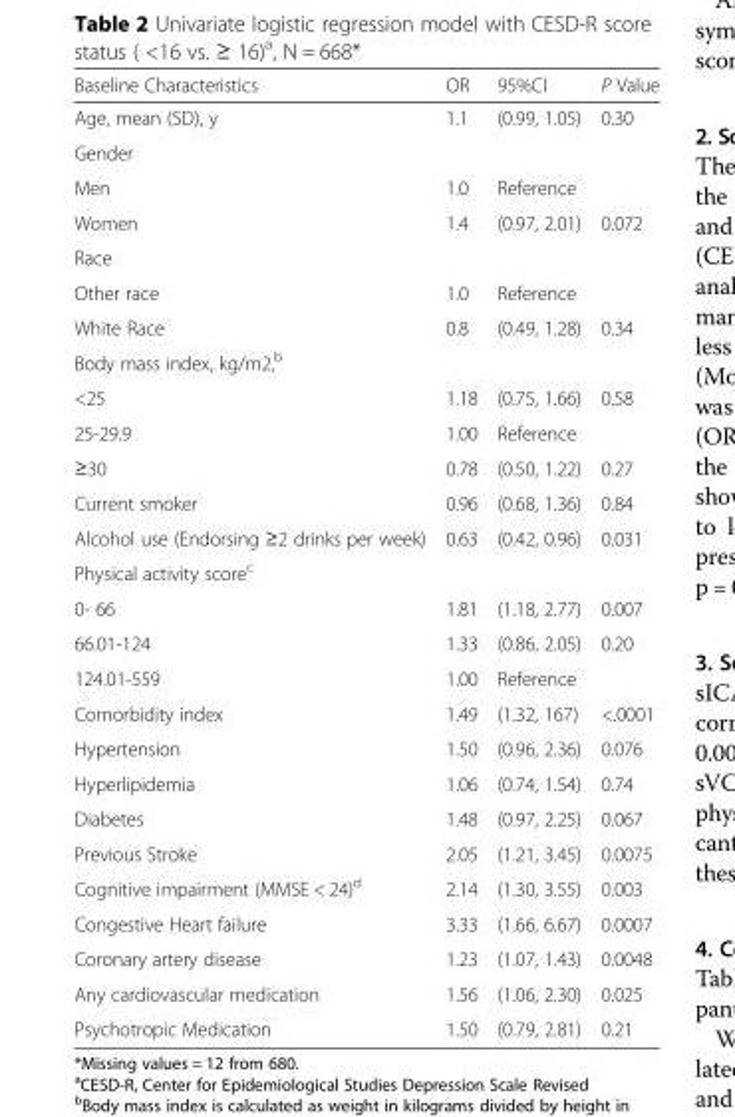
<table><thead><tr><td>Baseline Characteristics</td><td>OR</td><td>95%CI</td><td>P Value</td></tr></thead><tbody><tr><td>Age, mean (SD), y</td><td>1.1</td><td>(0.99, 1.05)</td><td>0.30</td></tr><tr><td colspan="4">Gender</td></tr><tr><td>Men</td><td>1.0</td><td>Reference</td><td></td></tr><tr><td>Women</td><td>1.4</td><td>(0.97, 2.01)</td><td>0.072</td></tr><tr><td colspan="4">Race</td></tr><tr><td>Other race</td><td>1.0</td><td>Reference</td><td></td></tr><tr><td>White Race</td><td>0.8</td><td>(0.49, 1.28)</td><td>0.34</td></tr><tr><td colspan="4">Body mass index, kg/m2,<sup>b</sup></td></tr><tr><td>&lt;25</td><td>1.18</td><td>(0.75, 1.66)</td><td>0.58</td></tr><tr><td>25-29.9</td><td>1.00</td><td>Reference</td><td></td></tr><tr><td>≥30</td><td>0.78</td><td>(0.50, 1.22)</td><td>0.27</td></tr><tr><td>Current smoker</td><td>0.96</td><td>(0.68, 1.36)</td><td>0.84</td></tr><tr><td>Alcohol use (Endorsing ≥2 drinks per week)</td><td>0.63</td><td>(0.42, 0.96)</td><td>0.031</td></tr><tr><td colspan="4">Physical activity score<sup>c</sup></td></tr><tr><td>0- 66</td><td>1.81</td><td>(1.18, 2.77)</td><td>0.007</td></tr><tr><td>66.01-124</td><td>1.33</td><td>(0.86, 2.05)</td><td>0.20</td></tr><tr><td>124.01-559</td><td>1.00</td><td>Reference</td><td></td></tr><tr><td>Comorbidity index</td><td>1.49</td><td>(1.32, 167)</td><td>&lt;.0001</td></tr><tr><td>Hypertension</td><td>1.50</td><td>(0.96, 2.36)</td><td>0.076</td></tr><tr><td>Hyperlipidemia</td><td>1.06</td><td>(0.74, 1.54)</td><td>0.74</td></tr><tr><td>Diabetes</td><td>1.48</td><td>(0.97, 2.25)</td><td>0.067</td></tr><tr><td>Previous Stroke</td><td>2.05</td><td>(1.21, 3.45)</td><td>0.0075</td></tr><tr><td>Cognitive impairment (MMSE &lt; 24)<sup>d</sup></td><td>2.14</td><td>(1.30, 3.55)</td><td>0.003</td></tr><tr><td>Congestive Heart failure</td><td>3.33</td><td>(1.66, 6.67)</td><td>0.0007</td></tr><tr><td>Coronary artery disease</td><td>1.23</td><td>(1.07, 1.43)</td><td>0.0048</td></tr><tr><td>Any cardiovascular medication</td><td>1.56</td><td>(1.06, 2.30)</td><td>0.025</td></tr><tr><td>Psychotropic Medication</td><td>1.50</td><td>(0.79, 2.81)</td><td>0.21</td></tr></tbody></table>